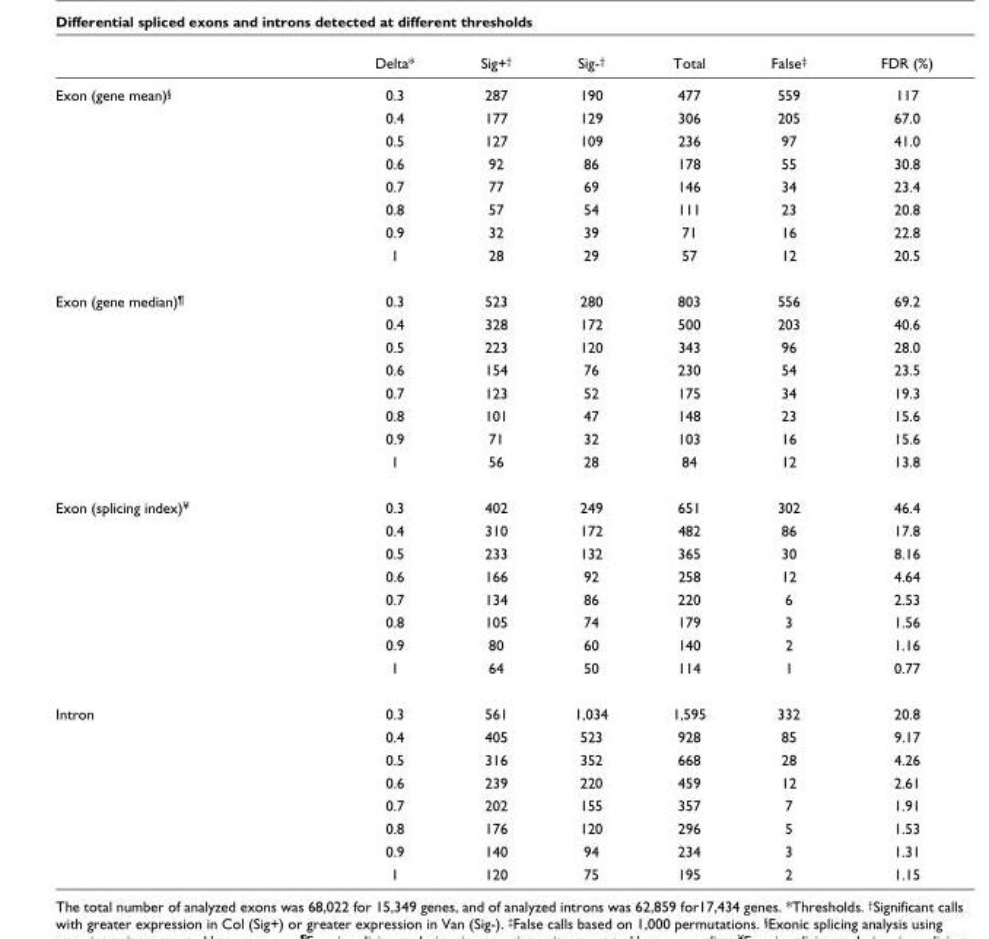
<table><thead><tr><td></td><td>Delta*</td><td>Sig+<sup>†</sup></td><td>Sig-<sup>†</sup></td><td>Total</td><td>False<sup>‡</sup></td><td>FDR (%)</td></tr></thead><tbody><tr><td rowspan="8">Exon (gene mean)<sup>§</sup></td><td>0.3</td><td>287</td><td>190</td><td>477</td><td>559</td><td>117</td></tr><tr><td>0.4</td><td>177</td><td>129</td><td>306</td><td>205</td><td>67.0</td></tr><tr><td>0.5</td><td>127</td><td>109</td><td>236</td><td>97</td><td>41.0</td></tr><tr><td>0.6</td><td>92</td><td>86</td><td>178</td><td>55</td><td>30.8</td></tr><tr><td>0.7</td><td>77</td><td>69</td><td>146</td><td>34</td><td>23.4</td></tr><tr><td>0.8</td><td>57</td><td>54</td><td>111</td><td>23</td><td>20.8</td></tr><tr><td>0.9</td><td>32</td><td>39</td><td>71</td><td>16</td><td>22.8</td></tr><tr><td>1</td><td>28</td><td>29</td><td>57</td><td>12</td><td>20.5</td></tr><tr><td rowspan="8">Exon (gene median)<sup>¶</sup></td><td>0.3</td><td>523</td><td>280</td><td>803</td><td>556</td><td>69.2</td></tr><tr><td>0.4</td><td>328</td><td>172</td><td>500</td><td>203</td><td>40.6</td></tr><tr><td>0.5</td><td>223</td><td>120</td><td>343</td><td>96</td><td>28.0</td></tr><tr><td>0.6</td><td>154</td><td>76</td><td>230</td><td>54</td><td>23.5</td></tr><tr><td>0.7</td><td>123</td><td>52</td><td>175</td><td>34</td><td>19.3</td></tr><tr><td>0.8</td><td>101</td><td>47</td><td>148</td><td>23</td><td>15.6</td></tr><tr><td>0.9</td><td>71</td><td>32</td><td>103</td><td>16</td><td>15.6</td></tr><tr><td>1</td><td>56</td><td>28</td><td>84</td><td>12</td><td>13.8</td></tr><tr><td rowspan="8">Exon (splicing index)<sup>¥</sup></td><td>0.3</td><td>402</td><td>249</td><td>651</td><td>302</td><td>46.4</td></tr><tr><td>0.4</td><td>310</td><td>172</td><td>482</td><td>86</td><td>17.8</td></tr><tr><td>0.5</td><td>233</td><td>132</td><td>365</td><td>30</td><td>8.16</td></tr><tr><td>0.6</td><td>166</td><td>92</td><td>258</td><td>12</td><td>4.64</td></tr><tr><td>0.7</td><td>134</td><td>86</td><td>220</td><td>6</td><td>2.53</td></tr><tr><td>0.8</td><td>105</td><td>74</td><td>179</td><td>3</td><td>1.56</td></tr><tr><td>0.9</td><td>80</td><td>60</td><td>140</td><td>2</td><td>1.16</td></tr><tr><td>1</td><td>64</td><td>50</td><td>114</td><td>1</td><td>0.77</td></tr><tr><td rowspan="8">Intron</td><td>0.3</td><td>561</td><td>1,034</td><td>1,595</td><td>332</td><td>20.8</td></tr><tr><td>0.4</td><td>405</td><td>523</td><td>928</td><td>85</td><td>9.17</td></tr><tr><td>0.5</td><td>316</td><td>352</td><td>668</td><td>28</td><td>4.26</td></tr><tr><td>0.6</td><td>239</td><td>220</td><td>459</td><td>12</td><td>2.61</td></tr><tr><td>0.7</td><td>202</td><td>155</td><td>357</td><td>7</td><td>1.91</td></tr><tr><td>0.8</td><td>176</td><td>120</td><td>296</td><td>5</td><td>1.53</td></tr><tr><td>0.9</td><td>140</td><td>94</td><td>234</td><td>3</td><td>1.31</td></tr><tr><td>1</td><td>120</td><td>75</td><td>195</td><td>2</td><td>1.15</td></tr></tbody></table>